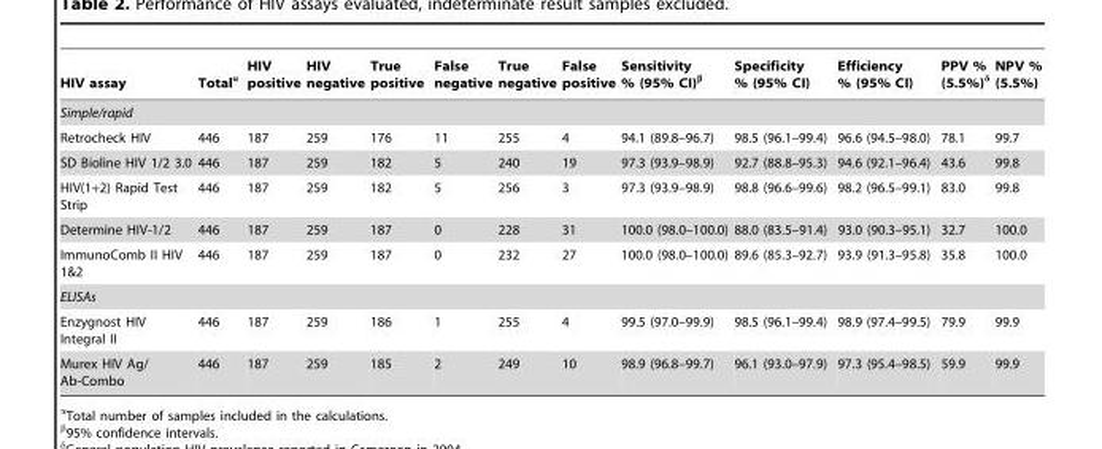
<table><thead><tr><td>HIV assay</td><td>Totalα</td><td>HIV positive</td><td>HIV negative</td><td>True positive</td><td>False negative</td><td>True negative</td><td>False positive</td><td>Sensitivity % (95% CI)β</td><td>Specificity % (95% CI)</td><td>Efficiency % (95% CI)</td><td>PPV % (5.5%)δ</td><td>NPV % (5.5%)</td></tr></thead><tbody><tr><td colspan="13">Simple/rapid</td></tr><tr><td>Retrocheck HIV</td><td>446</td><td>187</td><td>259</td><td>176</td><td>11</td><td>255</td><td>4</td><td>94.1 (89.8–96.7)</td><td>98.5 (96.1–99.4)</td><td>96.6 (94.5–98.0)</td><td>78.1</td><td>99.7</td></tr><tr><td>SD Bioline HIV 1/2 3.0</td><td>446</td><td>187</td><td>259</td><td>182</td><td>5</td><td>240</td><td>19</td><td>97.3 (93.9–98.9)</td><td>92.7 (88.8–95.3)</td><td>94.6 (92.1–96.4)</td><td>43.6</td><td>99.8</td></tr><tr><td>HIV(1+2) Rapid Test Strip</td><td>446</td><td>187</td><td>259</td><td>182</td><td>5</td><td>256</td><td>3</td><td>97.3 (93.9–98.9)</td><td>98.8 (96.6–99.6)</td><td>98.2 (96.5–99.1)</td><td>83.0</td><td>99.8</td></tr><tr><td>Determine HIV-1/2</td><td>446</td><td>187</td><td>259</td><td>187</td><td>0</td><td>228</td><td>31</td><td>100.0 (98.0–100.0)</td><td>88.0 (83.5–91.4)</td><td>93.0 (90.3–95.1)</td><td>32.7</td><td>100.0</td></tr><tr><td>ImmunoComb II HIV 1&amp;2</td><td>446</td><td>187</td><td>259</td><td>187</td><td>0</td><td>232</td><td>27</td><td>100.0 (98.0–100.0)</td><td>89.6 (85.3–92.7)</td><td>93.9 (91.3–95.8)</td><td>35.8</td><td>100.0</td></tr><tr><td colspan="13">ELISAs</td></tr><tr><td>Enzygnost HIV Integral II</td><td>446</td><td>187</td><td>259</td><td>186</td><td>1</td><td>255</td><td>4</td><td>99.5 (97.0–99.9)</td><td>98.5 (96.1–99.4)</td><td>98.9 (97.4–99.5)</td><td>79.9</td><td>99.9</td></tr><tr><td>Murex HIV Ag/ Ab-Combo</td><td>446</td><td>187</td><td>259</td><td>185</td><td>2</td><td>249</td><td>10</td><td>98.9 (96.8–99.7)</td><td>96.1 (93.0–97.9)</td><td>97.3 (95.4–98.5)</td><td>59.9</td><td>99.9</td></tr></tbody></table>